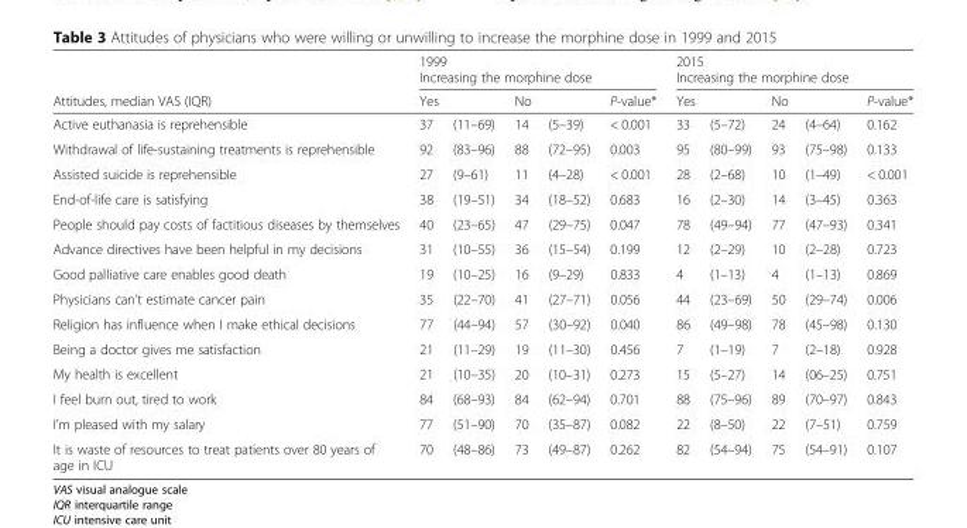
<table><thead><tr><td rowspan="3">Attitudes, median VAS (IQR) Active euthanasia is reprehensible</td><td colspan="5">1999 Increasing the morphine dose</td><td colspan="5">2015 Increasing the morphine dose</td></tr><tr><td colspan="2">Yes</td><td colspan="2">No</td><td rowspan="2">P-value* &lt; 0.001</td><td colspan="2">Yes</td><td colspan="2">No</td><td rowspan="2">P-value* 0.162</td></tr><tr><td>37</td><td>(11–69)</td><td>14</td><td>(5–39)</td><td>33</td><td>(5–72)</td><td>24</td><td>(4–64)</td></tr></thead><tbody><tr><td>Withdrawal of life-sustaining treatments is reprehensible</td><td>92</td><td>(83–96)</td><td>88</td><td>(72–95)</td><td>0.003</td><td>95</td><td>(80–99)</td><td>93</td><td>(75–98)</td><td>0.133</td></tr><tr><td>Assisted suicide is reprehensible</td><td>27</td><td>(9–61)</td><td>11</td><td>(4–28)</td><td>&lt; 0.001</td><td>28</td><td>(2–68)</td><td>10</td><td>(1–49)</td><td>&lt; 0.001</td></tr><tr><td>End-of-life care is satisfying</td><td>38</td><td>(19–51)</td><td>34</td><td>(18–52)</td><td>0.683</td><td>16</td><td>(2–30)</td><td>14</td><td>(3–45)</td><td>0.363</td></tr><tr><td>People should pay costs of factitious diseases by themselves</td><td>40</td><td>(23–65)</td><td>47</td><td>(29–75)</td><td>0.047</td><td>78</td><td>(49–94)</td><td>77</td><td>(47–93)</td><td>0.341</td></tr><tr><td>Advance directives have been helpful in my decisions</td><td>31</td><td>(10–55)</td><td>36</td><td>(15–54)</td><td>0.199</td><td>12</td><td>(2–29)</td><td>10</td><td>(2–28)</td><td>0.723</td></tr><tr><td>Good palliative care enables good death</td><td>19</td><td>(10–25)</td><td>16</td><td>(9–29)</td><td>0.833</td><td>4</td><td>(1–13)</td><td>4</td><td>(1–13)</td><td>0.869</td></tr><tr><td>Physicians can’t estimate cancer pain</td><td>35</td><td>(22–70)</td><td>41</td><td>(27–71)</td><td>0.056</td><td>44</td><td>(23–69)</td><td>50</td><td>(29–74)</td><td>0.006</td></tr><tr><td>Religion has influence when I make ethical decisions</td><td>77</td><td>(44–94)</td><td>57</td><td>(30–92)</td><td>0.040</td><td>86</td><td>(49–98)</td><td>78</td><td>(45–98)</td><td>0.130</td></tr><tr><td>Being a doctor gives me satisfaction</td><td>21</td><td>(11–29)</td><td>19</td><td>(11–30)</td><td>0.456</td><td>7</td><td>(1–19)</td><td>7</td><td>(2–18)</td><td>0.928</td></tr><tr><td>My health is excellent</td><td>21</td><td>(10–35)</td><td>20</td><td>(10–31)</td><td>0.273</td><td>15</td><td>(5–27)</td><td>14</td><td>(06–25)</td><td>0.751</td></tr><tr><td>I feel burn out, tired to work</td><td>84</td><td>(68–93)</td><td>84</td><td>(62–94)</td><td>0.701</td><td>88</td><td>(75–96)</td><td>89</td><td>(70–97)</td><td>0.843</td></tr><tr><td>I’m pleased with my salary</td><td>77</td><td>(51–90)</td><td>70</td><td>(35–87)</td><td>0.082</td><td>22</td><td>(8–50)</td><td>22</td><td>(7–51)</td><td>0.759</td></tr><tr><td>It is waste of resources to treat patients over 80 years of age in ICU</td><td>70</td><td>(48–86)</td><td>73</td><td>(49–87)</td><td>0.262</td><td>82</td><td>(54–94)</td><td>75</td><td>(54–91)</td><td>0.107</td></tr></tbody></table>